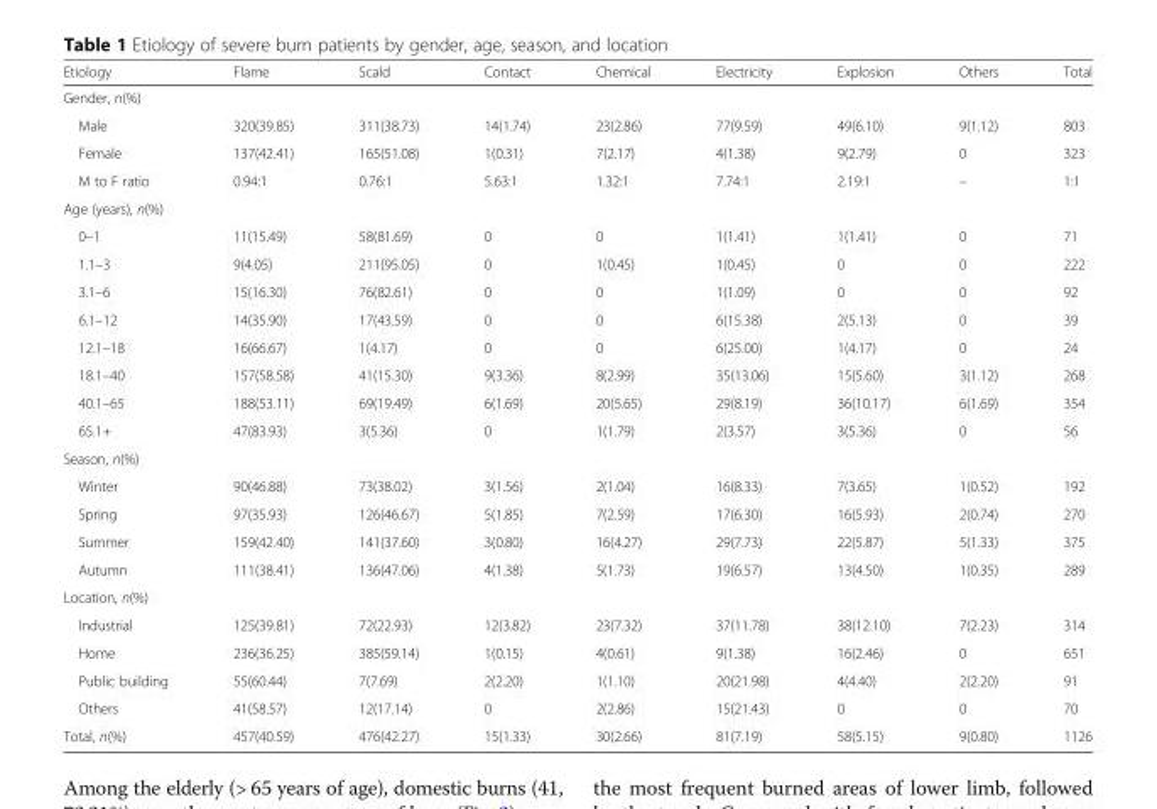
<table><thead><tr><td>Etiology</td><td>Flame</td><td>Scald</td><td>Contact</td><td>Chemical</td><td>Electricity</td><td>Explosion</td><td>Others</td><td>Total</td></tr></thead><tbody><tr><td colspan="9">Gender, n(%)</td></tr><tr><td>Male</td><td>320(39.85)</td><td>311(38.73)</td><td>14(1.74)</td><td>23(2.86)</td><td>77(9.59)</td><td>49(6.10)</td><td>9(1.12)</td><td>803</td></tr><tr><td>Female</td><td>137(42.41)</td><td>165(51.08)</td><td>1(0.31)</td><td>7(2.17)</td><td>4(1.38)</td><td>9(2.79)</td><td>0</td><td>323</td></tr><tr><td>M to F ratio</td><td>0.94:1</td><td>0.76:1</td><td>5.63:1</td><td>1.32:1</td><td>7.74:1</td><td>2.19:1</td><td>–</td><td>1:1</td></tr><tr><td colspan="9">Age (years), n(%)</td></tr><tr><td>0–1</td><td>11(15.49)</td><td>58(81.69)</td><td>0</td><td>0</td><td>1(1.41)</td><td>1(1.41)</td><td>0</td><td>71</td></tr><tr><td>1.1–3</td><td>9(4.05)</td><td>211(95.05)</td><td>0</td><td>1(0.45)</td><td>1(0.45)</td><td>0</td><td>0</td><td>222</td></tr><tr><td>3.1–6</td><td>15(16.30)</td><td>76(82.61)</td><td>0</td><td>0</td><td>1(1.09)</td><td>0</td><td>0</td><td>92</td></tr><tr><td>6.1–12</td><td>14(35.90)</td><td>17(43.59)</td><td>0</td><td>0</td><td>6(15.38)</td><td>2(5.13)</td><td>0</td><td>39</td></tr><tr><td>12.1–18</td><td>16(66.67)</td><td>1(4.17)</td><td>0</td><td>0</td><td>6(25.00)</td><td>1(4.17)</td><td>0</td><td>24</td></tr><tr><td>18.1–40</td><td>157(58.58)</td><td>41(15.30)</td><td>9(3.36)</td><td>8(2.99)</td><td>35(13.06)</td><td>15(5.60)</td><td>3(1.12)</td><td>268</td></tr><tr><td>40.1–65</td><td>188(53.11)</td><td>69(19.49)</td><td>6(1.69)</td><td>20(5.65)</td><td>29(8.19)</td><td>36(10.17)</td><td>6(1.69)</td><td>354</td></tr><tr><td>65.1+</td><td>47(83.93)</td><td>3(5.36)</td><td>0</td><td>1(1.79)</td><td>2(3.57)</td><td>3(5.36)</td><td>0</td><td>56</td></tr><tr><td colspan="9">Season, n(%)</td></tr><tr><td>Winter</td><td>90(46.88)</td><td>73(38.02)</td><td>3(1.56)</td><td>2(1.04)</td><td>16(8.33)</td><td>7(3.65)</td><td>1(0.52)</td><td>192</td></tr><tr><td>Spring</td><td>97(35.93)</td><td>126(46.67)</td><td>5(1.85)</td><td>7(2.59)</td><td>17(6.30)</td><td>16(5.93)</td><td>2(0.74)</td><td>270</td></tr><tr><td>Summer</td><td>159(42.40)</td><td>141(37.60)</td><td>3(0.80)</td><td>16(4.27)</td><td>29(7.73)</td><td>22(5.87)</td><td>5(1.33)</td><td>375</td></tr><tr><td>Autumn</td><td>111(38.41)</td><td>136(47.06)</td><td>4(1.38)</td><td>5(1.73)</td><td>19(6.57)</td><td>13(4.50)</td><td>1(0.35)</td><td>289</td></tr><tr><td colspan="9">Location, n(%)</td></tr><tr><td>Industrial</td><td>125(39.81)</td><td>72(22.93)</td><td>12(3.82)</td><td>23(7.32)</td><td>37(11.78)</td><td>38(12.10)</td><td>7(2.23)</td><td>314</td></tr><tr><td>Home</td><td>236(36.25)</td><td>385(59.14)</td><td>1(0.15)</td><td>4(0.61)</td><td>9(1.38)</td><td>16(2.46)</td><td>0</td><td>651</td></tr><tr><td>Public building</td><td>55(60.44)</td><td>7(7.69)</td><td>2(2.20)</td><td>1(1.10)</td><td>20(21.98)</td><td>4(4.40)</td><td>2(2.20)</td><td>91</td></tr><tr><td>Others</td><td>41(58.57)</td><td>12(17.14)</td><td>0</td><td>2(2.86)</td><td>15(21.43)</td><td>0</td><td>0</td><td>70</td></tr><tr><td>Total, n(%)</td><td>457(40.59)</td><td>476(42.27)</td><td>15(1.33)</td><td>30(2.66)</td><td>81(7.19)</td><td>58(5.15)</td><td>9(0.80)</td><td>1126</td></tr></tbody></table>